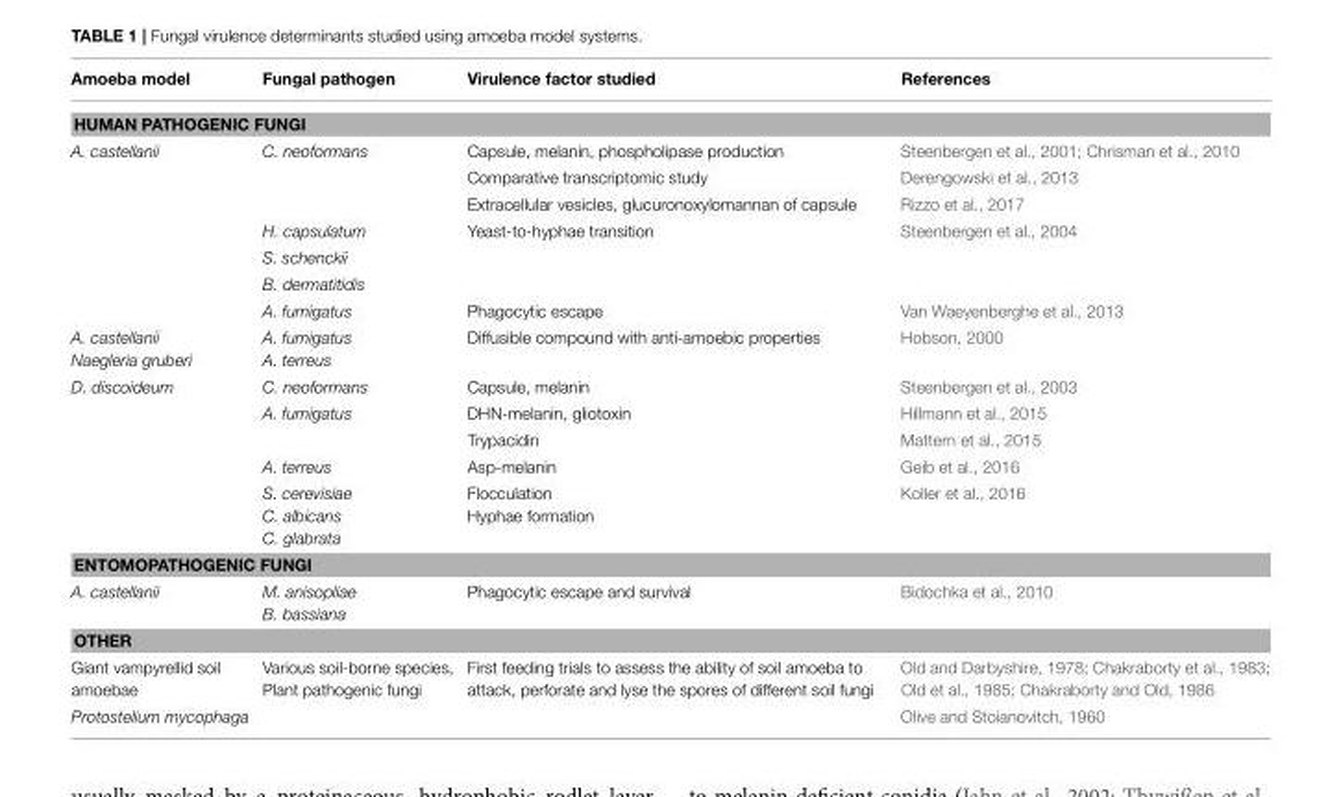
<table><thead><tr><td>Amoeba model</td><td>Fungal pathogen</td><td>Virulence factor studied</td><td>References</td></tr></thead><tbody><tr><td colspan="4">HUMAN PATHOGENIC FUNGI</td></tr><tr><td rowspan="7">A. castellanii</td><td>C. neoformans</td><td>Capsule, melanin, phospholipase production</td><td>Steenbergen et al., 2001; Chrisman et al., 2010</td></tr><tr><td></td><td>Comparative transcriptomic study</td><td>Derengowski et al., 2013</td></tr><tr><td></td><td>Extracellular vesicles, glucuronoxylomannan of capsule</td><td>Rizzo et al., 2017</td></tr><tr><td>H. capsulatum</td><td>Yeast-to-hyphae transition</td><td>Steenbergen et al., 2004</td></tr><tr><td>S. schenckii</td><td></td><td></td></tr><tr><td>B. dermatitidis</td><td></td><td></td></tr><tr><td>A. fumigatus</td><td>Phagocytic escape</td><td>Van Waeyenberghe et al., 2013</td></tr><tr><td>A. castellanii Naegleria gruberi</td><td>A. fumigatus A. terreus</td><td>Diffusible compound with anti-amoebic properties</td><td>Hobson, 2000</td></tr><tr><td rowspan="5">D. discoideum</td><td>C. neoformans</td><td>Capsule, melanin</td><td>Steenbergen et al., 2003</td></tr><tr><td>A. fumigatus</td><td>DHN-melanin, gliotoxin</td><td>Hillmann et al., 2015</td></tr><tr><td></td><td>Trypacidin</td><td>Mattern et al., 2015</td></tr><tr><td>A. terreus</td><td>Asp-melanin</td><td>Geib et al., 2016</td></tr><tr><td>S. cerevisiae C. albicans C. glabrata</td><td>Flocculation Hyphae formation</td><td>Koller et al., 2016</td></tr><tr><td colspan="4">ENTOMOPATHOGENIC FUNGI</td></tr><tr><td>A. castellanii</td><td>M. anisopliae B. bassiana</td><td>Phagocytic escape and survival</td><td>Bidochka et al., 2010</td></tr><tr><td colspan="4">OTHER</td></tr><tr><td>Giant vampyrellid soil amoebae</td><td>Various soil-borne species, Plant pathogenic fungi</td><td>First feeding trials to assess the ability of soil amoeba to attack, perforate and lyse the spores of different soil fungi</td><td>Old and Darbyshire, 1978; Chakraborty et al., 1983; Old et al., 1985; Chakraborty and Old, 1986</td></tr><tr><td>Protostelium mycophaga</td><td></td><td></td><td>Olive and Stoianovitch, 1960</td></tr></tbody></table>